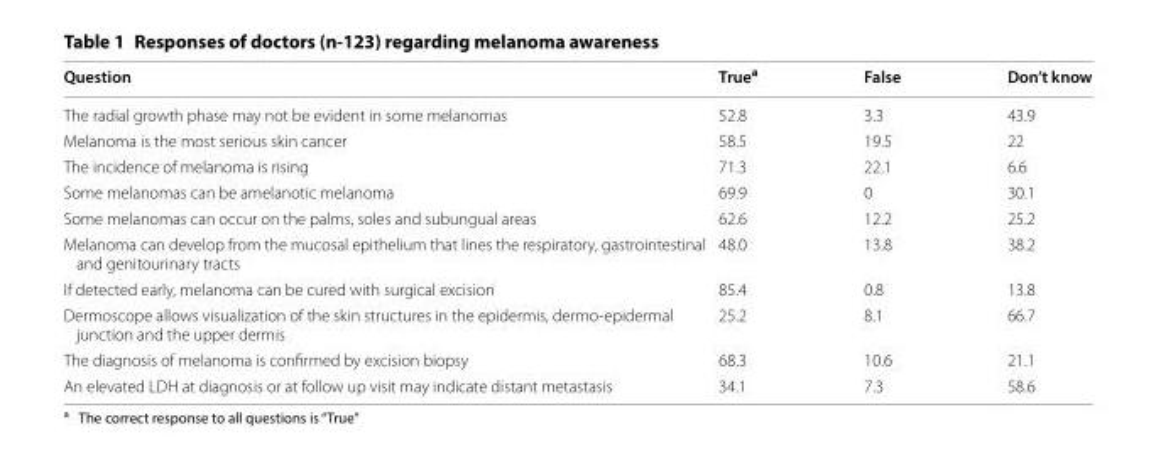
<table><thead><tr><td>Question</td><td>True<sup>a</sup></td><td>False</td><td>Don’t know</td></tr></thead><tbody><tr><td>The radial growth phase may not be evident in some melanomas</td><td>52.8</td><td>3.3</td><td>43.9</td></tr><tr><td>Melanoma is the most serious skin cancer</td><td>58.5</td><td>19.5</td><td>22</td></tr><tr><td>The incidence of melanoma is rising</td><td>71.3</td><td>22.1</td><td>6.6</td></tr><tr><td>Some melanomas can be amelanotic melanoma</td><td>69.9</td><td>0</td><td>30.1</td></tr><tr><td>Some melanomas can occur on the palms, soles and subungual areas</td><td>62.6</td><td>12.2</td><td>25.2</td></tr><tr><td>Melanoma can develop from the mucosal epithelium that lines the respiratory, gastrointestinal and genitourinary tracts</td><td>48.0</td><td>13.8</td><td>38.2</td></tr><tr><td>If detected early, melanoma can be cured with surgical excision</td><td>85.4</td><td>0.8</td><td>13.8</td></tr><tr><td>Dermoscope allows visualization of the skin structures in the epidermis, dermo-epidermal junction and the upper dermis</td><td>25.2</td><td>8.1</td><td>66.7</td></tr><tr><td>The diagnosis of melanoma is confirmed by excision biopsy</td><td>68.3</td><td>10.6</td><td>21.1</td></tr><tr><td>An elevated LDH at diagnosis or at follow up visit may indicate distant metastasis</td><td>34.1</td><td>7.3</td><td>58.6</td></tr></tbody></table>